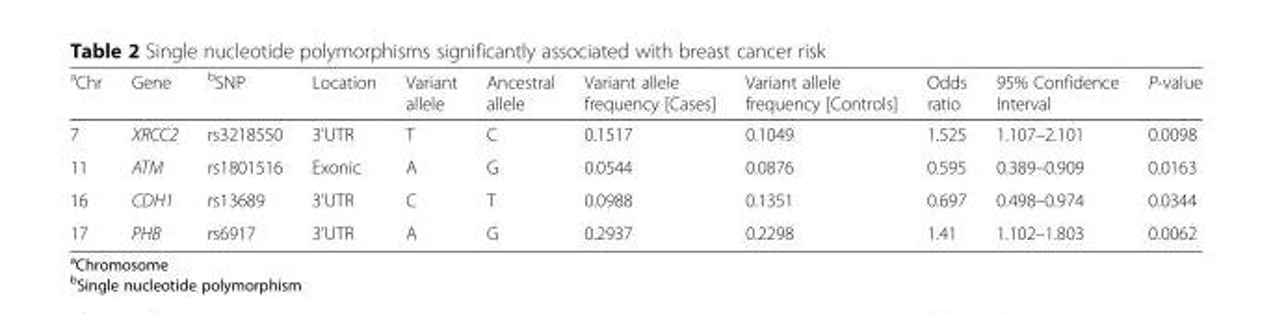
<table><thead><tr><td><sup>a</sup>Chr</td><td>Gene</td><td><sup>b</sup>SNP</td><td>Location</td><td>Variant allele</td><td>Ancestral allele</td><td>Variant allele frequency [Cases]</td><td>Variant allele frequency [Controls]</td><td>Odds ratio</td><td>95% Confidence Interval</td><td>P-value</td></tr></thead><tbody><tr><td>7</td><td>XRCC2</td><td>rs3218550</td><td>3’UTR</td><td>T</td><td>C</td><td>0.1517</td><td>0.1049</td><td>1.525</td><td>1.107–2.101</td><td>0.0098</td></tr><tr><td>11</td><td>ATM</td><td>rs1801516</td><td>Exonic</td><td>A</td><td>G</td><td>0.0544</td><td>0.0876</td><td>0.595</td><td>0.389–0.909</td><td>0.0163</td></tr><tr><td>16</td><td>CDH1</td><td>rs13689</td><td>3’UTR</td><td>C</td><td>T</td><td>0.0988</td><td>0.1351</td><td>0.697</td><td>0.498–0.974</td><td>0.0344</td></tr><tr><td>17</td><td>PHB</td><td>rs6917</td><td>3’UTR</td><td>A</td><td>G</td><td>0.2937</td><td>0.2298</td><td>1.41</td><td>1.102–1.803</td><td>0.0062</td></tr></tbody></table>